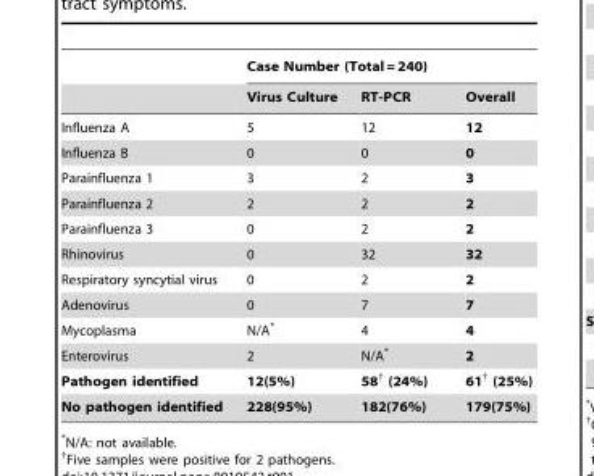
<table><thead><tr><td rowspan="2"></td><td colspan="3">Case Number (Total = 240)</td></tr><tr><td>Virus Culture</td><td>RT-PCR</td><td>Overall</td></tr></thead><tbody><tr><td>Influenza A</td><td>5</td><td>12</td><td>12</td></tr><tr><td>Influenza B</td><td>0</td><td>0</td><td>0</td></tr><tr><td>Parainfluenza 1</td><td>3</td><td>2</td><td>3</td></tr><tr><td>Parainfluenza 2</td><td>2</td><td>2</td><td>2</td></tr><tr><td>Parainfluenza 3</td><td>0</td><td>2</td><td>2</td></tr><tr><td>Rhinovirus</td><td>0</td><td>32</td><td>32</td></tr><tr><td>Respiratory syncytial virus</td><td>0</td><td>2</td><td>2</td></tr><tr><td>Adenovirus</td><td>0</td><td>7</td><td>7</td></tr><tr><td>Mycoplasma</td><td>N/A*</td><td>4</td><td>4</td></tr><tr><td>Enterovirus</td><td>2</td><td>N/A*</td><td>2</td></tr><tr><td>Pathogen identified</td><td>12(5%)</td><td>58† (24%)</td><td>61† (25%)</td></tr><tr><td>No pathogen identified</td><td>228(95%)</td><td>182(76%)</td><td>179(75%)</td></tr></tbody></table>